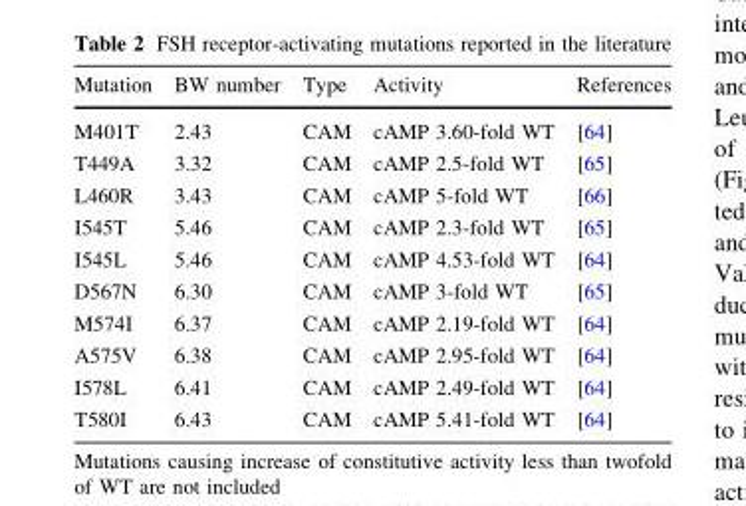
<table><thead><tr><td>Mutation</td><td>BW number</td><td>Type</td><td>Activity</td><td>References</td></tr></thead><tbody><tr><td>M401T</td><td>2.43</td><td>CAM</td><td>cAMP 3.60-fold WT</td><td>[64]</td></tr><tr><td>T449A</td><td>3.32</td><td>CAM</td><td>cAMP 2.5-fold WT</td><td>[65]</td></tr><tr><td>L460R</td><td>3.43</td><td>CAM</td><td>cAMP 5-fold WT</td><td>[66]</td></tr><tr><td>I545T</td><td>5.46</td><td>CAM</td><td>cAMP 2.3-fold WT</td><td>[65]</td></tr><tr><td>I545L</td><td>5.46</td><td>CAM</td><td>cAMP 4.53-fold WT</td><td>[64]</td></tr><tr><td>D567N</td><td>6.30</td><td>CAM</td><td>cAMP 3-fold WT</td><td>[65]</td></tr><tr><td>M574I</td><td>6.37</td><td>CAM</td><td>cAMP 2.19-fold WT</td><td>[64]</td></tr><tr><td>A575V</td><td>6.38</td><td>CAM</td><td>cAMP 2.95-fold WT</td><td>[64]</td></tr><tr><td>I578L</td><td>6.41</td><td>CAM</td><td>cAMP 2.49-fold WT</td><td>[64]</td></tr><tr><td>T580I</td><td>6.43</td><td>CAM</td><td>cAMP 5.41-fold WT</td><td>[64]</td></tr></tbody></table>